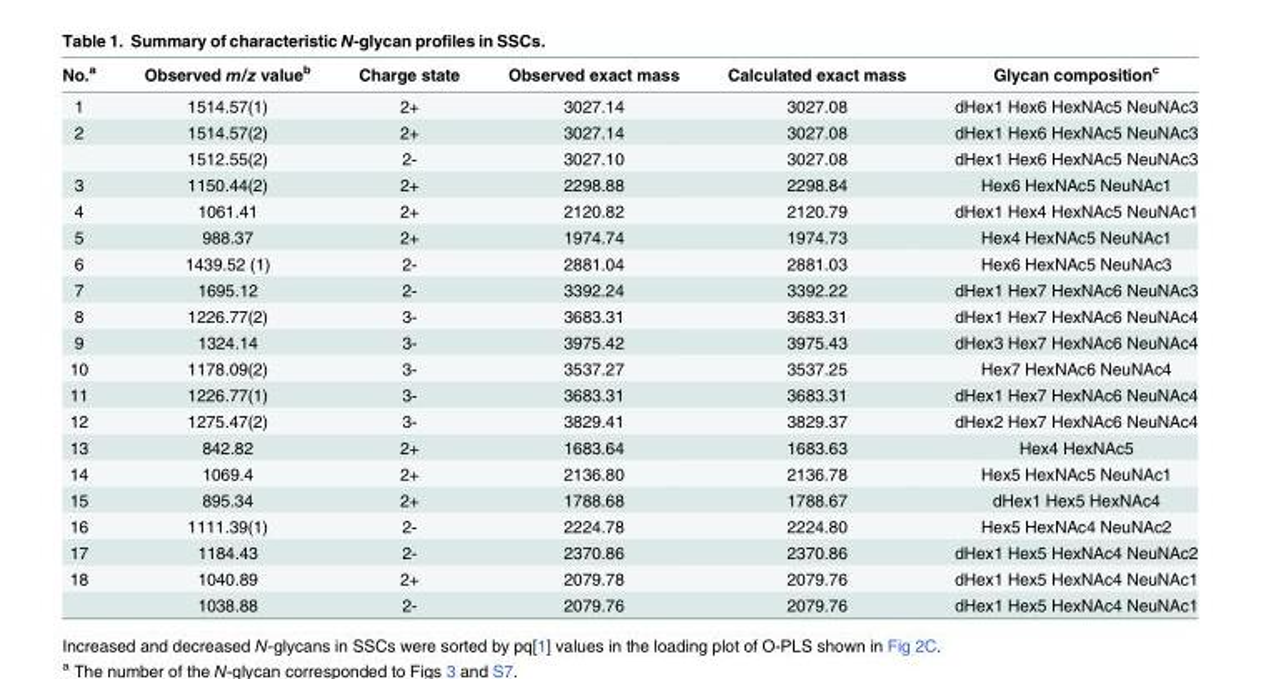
<table><thead><tr><td>No.<sup>a</sup></td><td>Observed m/z value<sup>b</sup></td><td>Charge state</td><td>Observed exact mass</td><td>Calculated exact mass</td><td>Glycan composition<sup>c</sup></td></tr></thead><tbody><tr><td>1</td><td>1514.57(1)</td><td>2+</td><td>3027.14</td><td>3027.08</td><td>dHex1 Hex6 HexNAc5 NeuNAc3</td></tr><tr><td rowspan="2">2</td><td>1514.57(2)</td><td>2+</td><td>3027.14</td><td>3027.08</td><td>dHex1 Hex6 HexNAc5 NeuNAc3</td></tr><tr><td>1512.55(2)</td><td>2-</td><td>3027.10</td><td>3027.08</td><td>dHex1 Hex6 HexNAc5 NeuNAc3</td></tr><tr><td>3</td><td>1150.44(2)</td><td>2+</td><td>2298.88</td><td>2298.84</td><td>Hex6 HexNAc5 NeuNAc1</td></tr><tr><td>4</td><td>1061.41</td><td>2+</td><td>2120.82</td><td>2120.79</td><td>dHex1 Hex4 HexNAc5 NeuNAc1</td></tr><tr><td>5</td><td>988.37</td><td>2+</td><td>1974.74</td><td>1974.73</td><td>Hex4 HexNAc5 NeuNAc1</td></tr><tr><td>6</td><td>1439.52 (1)</td><td>2-</td><td>2881.04</td><td>2881.03</td><td>Hex6 HexNAc5 NeuNAc3</td></tr><tr><td>7</td><td>1695.12</td><td>2-</td><td>3392.24</td><td>3392.22</td><td>dHex1 Hex7 HexNAc6 NeuNAc3</td></tr><tr><td>8</td><td>1226.77(2)</td><td>3-</td><td>3683.31</td><td>3683.31</td><td>dHex1 Hex7 HexNAc6 NeuNAc4</td></tr><tr><td>9</td><td>1324.14</td><td>3-</td><td>3975.42</td><td>3975.43</td><td>dHex3 Hex7 HexNAc6 NeuNAc4</td></tr><tr><td>10</td><td>1178.09(2)</td><td>3-</td><td>3537.27</td><td>3537.25</td><td>Hex7 HexNAc6 NeuNAc4</td></tr><tr><td>11</td><td>1226.77(1)</td><td>3-</td><td>3683.31</td><td>3683.31</td><td>dHex1 Hex7 HexNAc6 NeuNAc4</td></tr><tr><td>12</td><td>1275.47(2)</td><td>3-</td><td>3829.41</td><td>3829.37</td><td>dHex2 Hex7 HexNAc6 NeuNAc4</td></tr><tr><td>13</td><td>842.82</td><td>2+</td><td>1683.64</td><td>1683.63</td><td>Hex4 HexNAc5</td></tr><tr><td>14</td><td>1069.4</td><td>2+</td><td>2136.80</td><td>2136.78</td><td>Hex5 HexNAc5 NeuNAc1</td></tr><tr><td>15</td><td>895.34</td><td>2+</td><td>1788.68</td><td>1788.67</td><td>dHex1 Hex5 HexNAc4</td></tr><tr><td>16</td><td>1111.39(1)</td><td>2-</td><td>2224.78</td><td>2224.80</td><td>Hex5 HexNAc4 NeuNAc2</td></tr><tr><td>17</td><td>1184.43</td><td>2-</td><td>2370.86</td><td>2370.86</td><td>dHex1 Hex5 HexNAc4 NeuNAc2</td></tr><tr><td rowspan="2">18</td><td>1040.89</td><td>2+</td><td>2079.78</td><td>2079.76</td><td>dHex1 Hex5 HexNAc4 NeuNAc1</td></tr><tr><td>1038.88</td><td>2-</td><td>2079.76</td><td>2079.76</td><td>dHex1 Hex5 HexNAc4 NeuNAc1</td></tr></tbody></table>